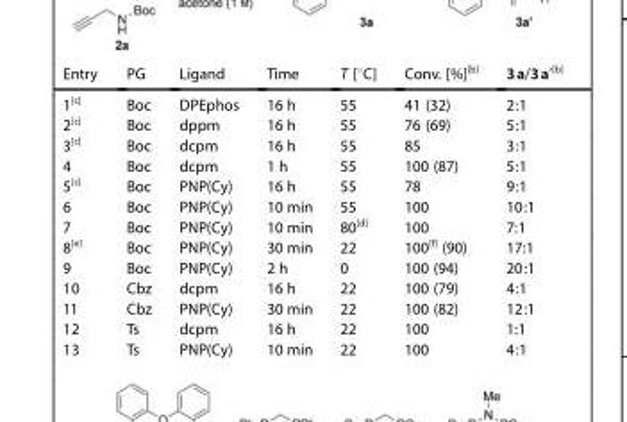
<table><thead><tr><td>Entry</td><td>PG</td><td>Ligand</td><td>Time</td><td>T [°C]</td><td>Conv. [%]<sup>[b]</sup></td><td>3a/3a’<sup>[b]</sup></td></tr></thead><tbody><tr><td>1<sup>[c]</sup></td><td>Boc</td><td>DPEphos</td><td>16 h</td><td>55</td><td>41 (32)</td><td>2:1</td></tr><tr><td>2<sup>[c]</sup></td><td>Boc</td><td>dppm</td><td>16 h</td><td>55</td><td>76 (69)</td><td>5:1</td></tr><tr><td>3<sup>[c]</sup></td><td>Boc</td><td>dcpm</td><td>16 h</td><td>55</td><td>85</td><td>3:1</td></tr><tr><td>4</td><td>Boc</td><td>dcpm</td><td>1 h</td><td>55</td><td>100 (87)</td><td>5:1</td></tr><tr><td>5<sup>[c]</sup></td><td>Boc</td><td>PNP(Cy)</td><td>16 h</td><td>55</td><td>78</td><td>9:1</td></tr><tr><td>6</td><td>Boc</td><td>PNP(Cy)</td><td>10 min</td><td>55</td><td>100</td><td>10:1</td></tr><tr><td>7</td><td>Boc</td><td>PNP(Cy)</td><td>10 min</td><td>80<sup>[d]</sup></td><td>100</td><td>7:1</td></tr><tr><td>8<sup>[e]</sup></td><td>Boc</td><td>PNP(Cy)</td><td>30 min</td><td>22</td><td>100<sup>[f]</sup> (90)</td><td>17:1</td></tr><tr><td>9</td><td>Boc</td><td>PNP(Cy)</td><td>2 h</td><td>0</td><td>100 (94)</td><td>20:1</td></tr><tr><td>10</td><td>Cbz</td><td>dcpm</td><td>16 h</td><td>22</td><td>100 (79)</td><td>4:1</td></tr><tr><td>11</td><td>Cbz</td><td>PNP(Cy)</td><td>30 min</td><td>22</td><td>100 (82)</td><td>12:1</td></tr><tr><td>12</td><td>Ts</td><td>dcpm</td><td>16 h</td><td>22</td><td>100</td><td>1:1</td></tr><tr><td>13</td><td>Ts</td><td>PNP(Cy)</td><td>10 min</td><td>22</td><td>100</td><td>4:1</td></tr></tbody></table>